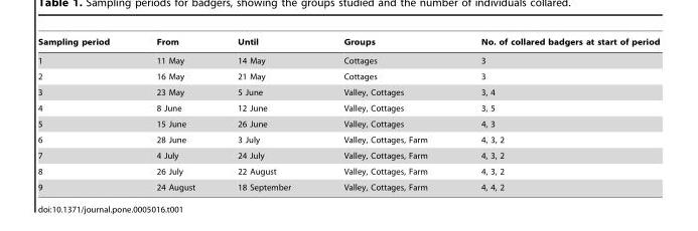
<table><thead><tr><td>Sampling period</td><td>From</td><td>Until</td><td>Groups</td><td>No. of collared badgers at start of period</td></tr></thead><tbody><tr><td>1</td><td>11 May</td><td>14 May</td><td>Cottages</td><td>3</td></tr><tr><td>2</td><td>16 May</td><td>21 May</td><td>Cottages</td><td>3</td></tr><tr><td>3</td><td>23 May</td><td>5 June</td><td>Valley, Cottages</td><td>3, 4</td></tr><tr><td>4</td><td>8 June</td><td>12 June</td><td>Valley, Cottages</td><td>3, 5</td></tr><tr><td>5</td><td>15 June</td><td>26 June</td><td>Valley, Cottages</td><td>4, 3</td></tr><tr><td>6</td><td>28 June</td><td>3 July</td><td>Valley, Cottages, Farm</td><td>4, 3, 2</td></tr><tr><td>7</td><td>4 July</td><td>24 July</td><td>Valley, Cottages, Farm</td><td>4, 3, 2</td></tr><tr><td>8</td><td>26 July</td><td>22 August</td><td>Valley, Cottages, Farm</td><td>4, 3, 2</td></tr><tr><td>9</td><td>24 August</td><td>18 September</td><td>Valley, Cottages, Farm</td><td>4, 4, 2</td></tr></tbody></table>